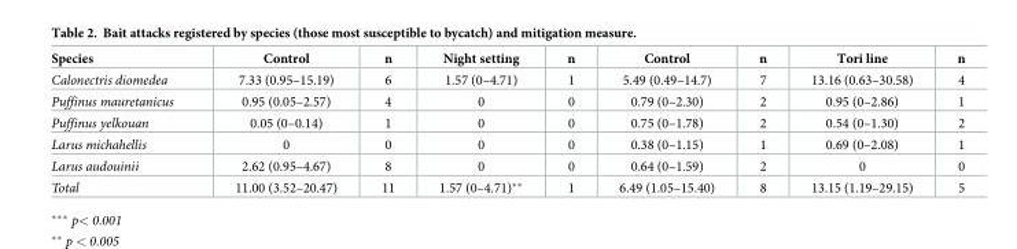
<table><thead><tr><td>Species</td><td>Control</td><td>n</td><td>Night setting</td><td>n</td><td>Control</td><td>n</td><td>Tori line</td><td>n</td></tr></thead><tbody><tr><td>Calonectris diomedea</td><td>7.33 (0.95–15.19)</td><td>6</td><td>1.57 (0–4.71)</td><td>1</td><td>5.49 (0.49–14.7)</td><td>7</td><td>13.16 (0.63–30.58)</td><td>4</td></tr><tr><td>Puffinus mauretanicus</td><td>0.95 (0.05–2.57)</td><td>4</td><td>0</td><td>0</td><td>0.79 (0–2.30)</td><td>2</td><td>0.95 (0–2.86)</td><td>1</td></tr><tr><td>Puffinus yelkouan</td><td>0.05 (0–0.14)</td><td>1</td><td>0</td><td>0</td><td>0.75 (0–1.78)</td><td>2</td><td>0.54 (0–1.30)</td><td>2</td></tr><tr><td>Larus michahellis</td><td>0</td><td>0</td><td>0</td><td>0</td><td>0.38 (0–1.15)</td><td>1</td><td>0.69 (0–2.08)</td><td>1</td></tr><tr><td>Larus audouinii</td><td>2.62 (0.95–4.67)</td><td>8</td><td>0</td><td>0</td><td>0.64 (0–1.59)</td><td>2</td><td>0</td><td>0</td></tr><tr><td>Total</td><td>11.00 (3.52–20.47)</td><td>11</td><td>1.57 (0–4.71)**</td><td>1</td><td>6.49 (1.05–15.40)</td><td>8</td><td>13.15 (1.19–29.15)</td><td>5</td></tr></tbody></table>